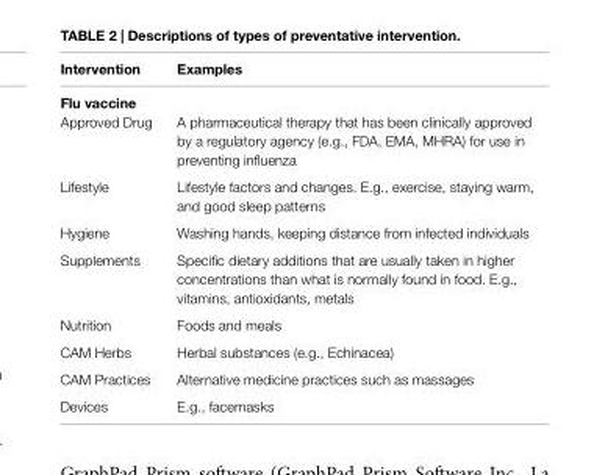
<table><thead><tr><td>intervention</td><td>examples</td></tr></thead><tbody><tr><td colspan="2">Flu vaccine</td></tr><tr><td>Approved Drug</td><td>A pharmaceutical therapy that has been clinically approved by a regulatory agency (e.g., FDA, EMA, MHRA) for use in preventing influenza</td></tr><tr><td>Lifestyle</td><td>Lifestyle factors and changes. E.g., exercise, staying warm, and good sleep patterns</td></tr><tr><td>Hygiene</td><td>Washing hands, keeping distance from infected individuals</td></tr><tr><td>Supplements</td><td>Specific dietary additions that are usually taken in higher concentrations than what is normally found in food. E.g., vitamins, antioxidants, metals</td></tr><tr><td>Nutrition</td><td>Foods and meals</td></tr><tr><td>CAM Herbs</td><td>Herbal substances (e.g., Echinacea)</td></tr><tr><td>CAM Practices</td><td>Alternative medicine practices such as massages</td></tr><tr><td>Devices</td><td>E.g., facemasks</td></tr></tbody></table>